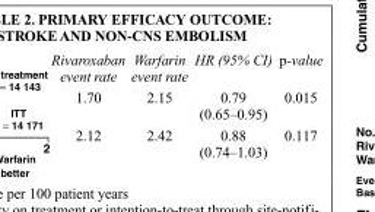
<table><thead><tr><td>Rivaroxaban event rate</td><td>Warfarin event rate</td><td>HR (95% CI)</td><td>p-value</td></tr></thead><tbody><tr><td>1.70</td><td>2.15</td><td>0.79 (0.65–0.95)</td><td>0.015</td></tr><tr><td>2.12</td><td>2.42</td><td>0.88 (0.74–1.03)</td><td>0.117</td></tr></tbody></table>